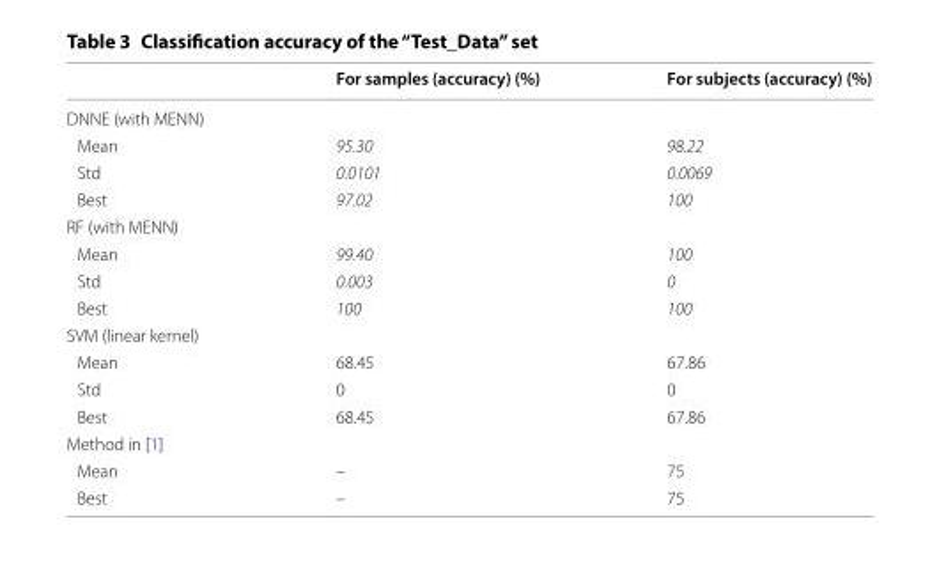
<table><thead><tr><td></td><td>For samples (accuracy) (%)</td><td>For subjects (accuracy) (%)</td></tr></thead><tbody><tr><td colspan="3">DNNE (with MENN)</td></tr><tr><td>Mean</td><td>95.30</td><td>98.22</td></tr><tr><td>Std</td><td>0.0101</td><td>0.0069</td></tr><tr><td>Best</td><td>97.02</td><td>100</td></tr><tr><td colspan="3">RF (with MENN)</td></tr><tr><td>Mean</td><td>99.40</td><td>100</td></tr><tr><td>Std</td><td>0.003</td><td>0</td></tr><tr><td>Best</td><td>100</td><td>100</td></tr><tr><td colspan="3">SVM (linear kernel)</td></tr><tr><td>Mean</td><td>68.45</td><td>67.86</td></tr><tr><td>Std</td><td>0</td><td>0</td></tr><tr><td>Best</td><td>68.45</td><td>67.86</td></tr><tr><td colspan="3">Method in [1]</td></tr><tr><td>Mean</td><td>–</td><td>75</td></tr><tr><td>Best</td><td>–</td><td>75</td></tr></tbody></table>